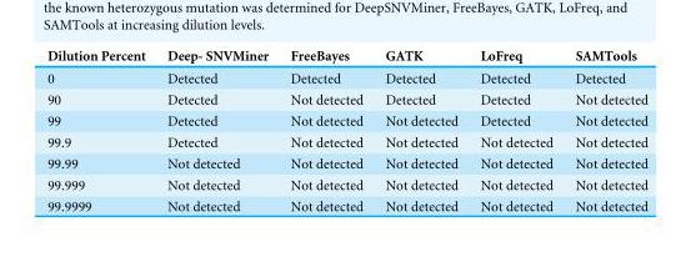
<table><thead><tr><td>Dilution Percent</td><td>Deep- SNVMiner</td><td>FreeBayes</td><td>GATK</td><td>LoFreq</td><td>SAMTools</td></tr></thead><tbody><tr><td>0</td><td>Detected</td><td>Detected</td><td>Detected</td><td>Detected</td><td>Detected</td></tr><tr><td>90</td><td>Detected</td><td>Not detected</td><td>Detected</td><td>Detected</td><td>Not detected</td></tr><tr><td>99</td><td>Detected</td><td>Not detected</td><td>Not detected</td><td>Detected</td><td>Not detected</td></tr><tr><td>99.9</td><td>Detected</td><td>Not detected</td><td>Not detected</td><td>Not detected</td><td>Not detected</td></tr><tr><td>99.99</td><td>Not detected</td><td>Not detected</td><td>Not detected</td><td>Not detected</td><td>Not detected</td></tr><tr><td>99.999</td><td>Not detected</td><td>Not detected</td><td>Not detected</td><td>Not detected</td><td>Not detected</td></tr><tr><td>99.9999</td><td>Not detected</td><td>Not detected</td><td>Not detected</td><td>Not detected</td><td>Not detected</td></tr></tbody></table>